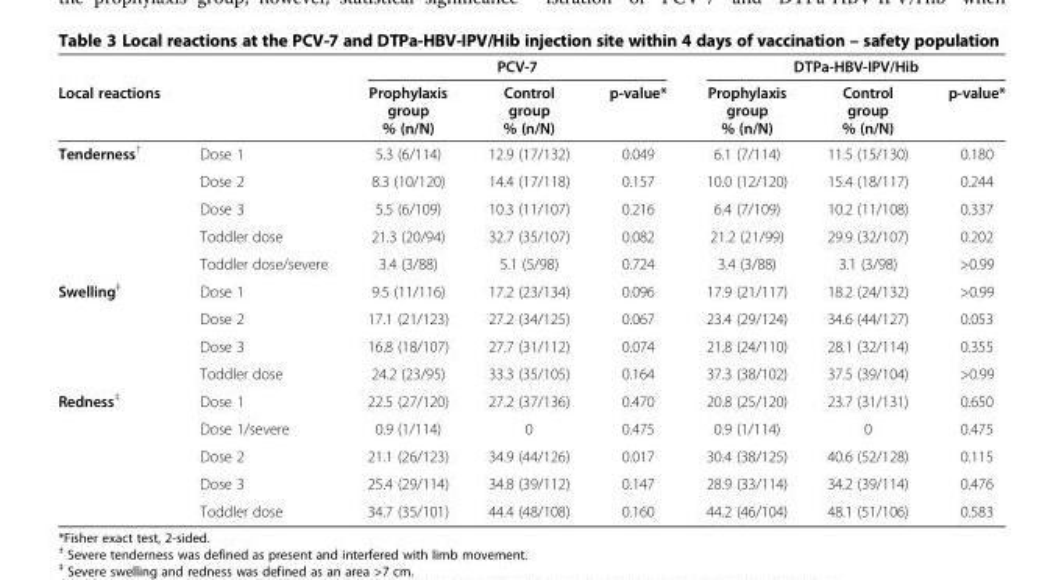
<table><thead><tr><td rowspan="2">Local reactions</td><td rowspan="2"></td><td colspan="3">PCV-7</td><td colspan="3">DTPa-HBV-IPV/Hib</td></tr><tr><td>Prophylaxis group % (n/N)</td><td>Control group % (n/N)</td><td>p-value*</td><td>Prophylaxis group % (n/N)</td><td>Control group % (n/N)</td><td>p-value*</td></tr></thead><tbody><tr><td rowspan="5">Tenderness<sup>†</sup></td><td>Dose 1</td><td>5.3 (6/114)</td><td>12.9 (17/132)</td><td>0.049</td><td>6.1 (7/114)</td><td>11.5 (15/130)</td><td>0.180</td></tr><tr><td>Dose 2</td><td>8.3 (10/120)</td><td>14.4 (17/118)</td><td>0.157</td><td>10.0 (12/120)</td><td>15.4 (18/117)</td><td>0.244</td></tr><tr><td>Dose 3</td><td>5.5 (6/109)</td><td>10.3 (11/107)</td><td>0.216</td><td>6.4 (7/109)</td><td>10.2 (11/108)</td><td>0.337</td></tr><tr><td>Toddler dose</td><td>21.3 (20/94)</td><td>32.7 (35/107)</td><td>0.082</td><td>21.2 (21/99)</td><td>29.9 (32/107)</td><td>0.202</td></tr><tr><td>Toddler dose/severe</td><td>3.4 (3/88)</td><td>5.1 (5/98)</td><td>0.724</td><td>3.4 (3/88)</td><td>3.1 (3/98)</td><td>&gt;0.99</td></tr><tr><td rowspan="4">Swelling<sup>‡</sup></td><td>Dose 1</td><td>9.5 (11/116)</td><td>17.2 (23/134)</td><td>0.096</td><td>17.9 (21/117)</td><td>18.2 (24/132)</td><td>&gt;0.99</td></tr><tr><td>Dose 2</td><td>17.1 (21/123)</td><td>27.2 (34/125)</td><td>0.067</td><td>23.4 (29/124)</td><td>34.6 (44/127)</td><td>0.053</td></tr><tr><td>Dose 3</td><td>16.8 (18/107)</td><td>27.7 (31/112)</td><td>0.074</td><td>21.8 (24/110)</td><td>28.1 (32/114)</td><td>0.355</td></tr><tr><td>Toddler dose</td><td>24.2 (23/95)</td><td>33.3 (35/105)</td><td>0.164</td><td>37.3 (38/102)</td><td>37.5 (39/104)</td><td>&gt;0.99</td></tr><tr><td rowspan="5">Redness<sup>‡</sup></td><td>Dose 1</td><td>22.5 (27/120)</td><td>27.2 (37/136)</td><td>0.470</td><td>20.8 (25/120)</td><td>23.7 (31/131)</td><td>0.650</td></tr><tr><td>Dose 1/severe</td><td>0.9 (1/114)</td><td>0</td><td>0.475</td><td>0.9 (1/114)</td><td>0</td><td>0.475</td></tr><tr><td>Dose 2</td><td>21.1 (26/123)</td><td>34.9 (44/126)</td><td>0.017</td><td>30.4 (38/125)</td><td>40.6 (52/128)</td><td>0.115</td></tr><tr><td>Dose 3</td><td>25.4 (29/114)</td><td>34.8 (39/112)</td><td>0.147</td><td>28.9 (33/114)</td><td>34.2 (39/114)</td><td>0.476</td></tr><tr><td>Toddler dose</td><td>34.7 (35/101)</td><td>44.4 (48/108)</td><td>0.160</td><td>44.2 (46/104)</td><td>48.1 (51/106)</td><td>0.583</td></tr></tbody></table>